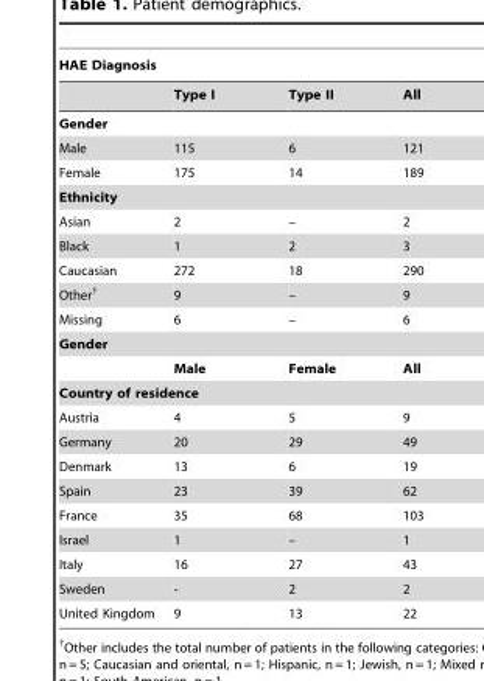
<table><thead><tr><td colspan="4">HAE Diagnosis</td></tr><tr><td></td><td>Type I</td><td>Type II</td><td>All</td></tr></thead><tbody><tr><td colspan="4">Gender</td></tr><tr><td>Male</td><td>115</td><td>6</td><td>121</td></tr><tr><td>Female</td><td>175</td><td>14</td><td>189</td></tr><tr><td colspan="4">Ethnicity</td></tr><tr><td>Asian</td><td>2</td><td>–</td><td>2</td></tr><tr><td>Black</td><td>1</td><td>2</td><td>3</td></tr><tr><td>Caucasian</td><td>272</td><td>18</td><td>290</td></tr><tr><td>Other†</td><td>9</td><td>–</td><td>9</td></tr><tr><td>Missing</td><td>6</td><td>–</td><td>6</td></tr><tr><td colspan="4">Gender</td></tr><tr><td></td><td>Male</td><td>Female</td><td>All</td></tr><tr><td colspan="4">Country of residence</td></tr><tr><td>Austria</td><td>4</td><td>5</td><td>9</td></tr><tr><td>Germany</td><td>20</td><td>29</td><td>49</td></tr><tr><td>Denmark</td><td>13</td><td>6</td><td>19</td></tr><tr><td>Spain</td><td>23</td><td>39</td><td>62</td></tr><tr><td>France</td><td>35</td><td>68</td><td>103</td></tr><tr><td>Israel</td><td>1</td><td>–</td><td>1</td></tr><tr><td>Italy</td><td>16</td><td>27</td><td>43</td></tr><tr><td>Sweden</td><td>-</td><td>2</td><td>2</td></tr><tr><td>United Kingdom</td><td>9</td><td>13</td><td>22</td></tr></tbody></table>